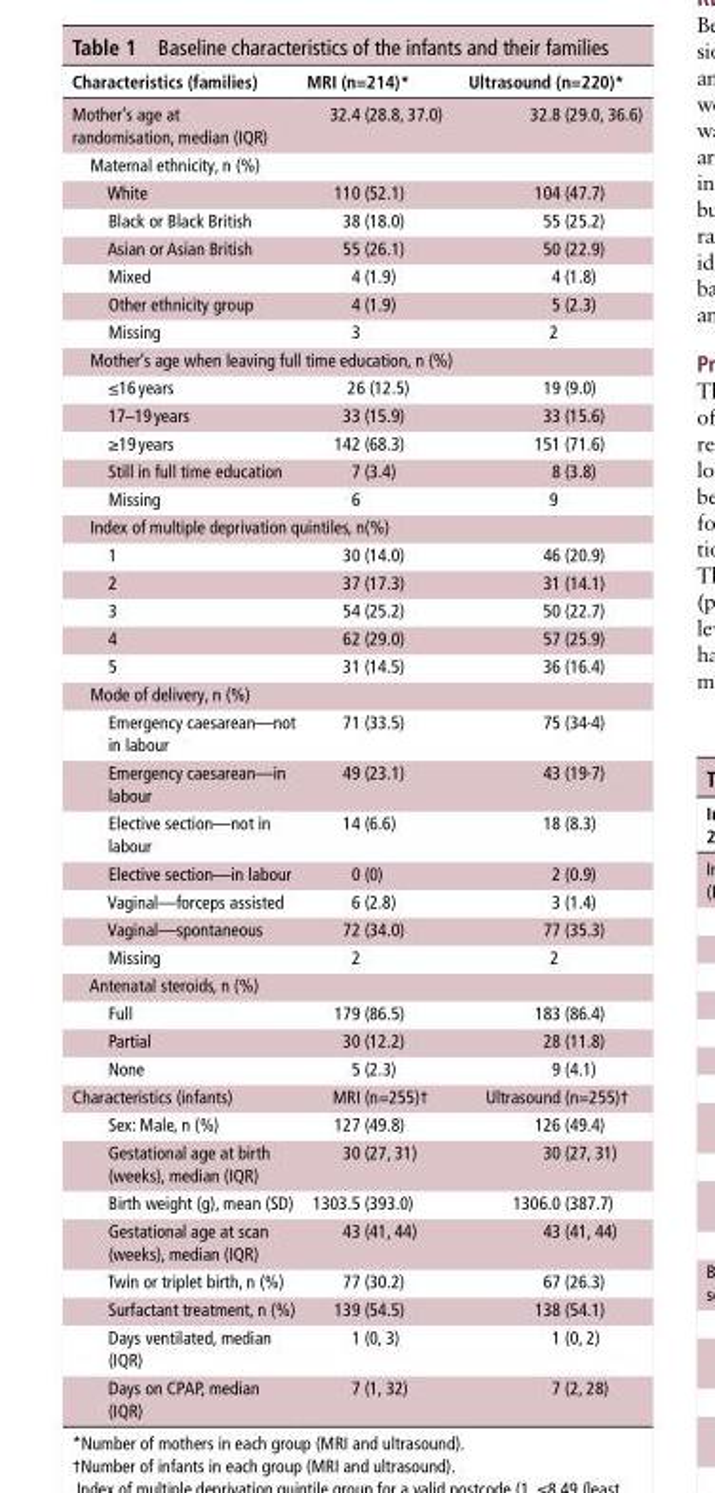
<table><thead><tr><td>characteristics (families)</td><td>MrI (n=214)*</td><td>ultrasound (n=220)*</td></tr></thead><tbody><tr><td>Mother’s age at randomisation, median (IQR)</td><td>32.4 (28.8, 37.0)</td><td>32.8 (29.0, 36.6)</td></tr><tr><td colspan="3">Maternal ethnicity, n (%)</td></tr><tr><td>White</td><td>110 (52.1)</td><td>104 (47.7)</td></tr><tr><td>Black or Black British</td><td>38 (18.0)</td><td>55 (25.2)</td></tr><tr><td>Asian or Asian British</td><td>55 (26.1)</td><td>50 (22.9)</td></tr><tr><td>Mixed</td><td>4 (1.9)</td><td>4 (1.8)</td></tr><tr><td>Other ethnicity group</td><td>4 (1.9)</td><td>5 (2.3)</td></tr><tr><td>Missing</td><td>3</td><td>2</td></tr><tr><td colspan="3">Mother’s age when leaving full time education, n (%)</td></tr><tr><td>≤16 years</td><td>26 (12.5)</td><td>19 (9.0)</td></tr><tr><td>17–19 years</td><td>33 (15.9)</td><td>33 (15.6)</td></tr><tr><td>≥19 years</td><td>142 (68.3)</td><td>151 (71.6)</td></tr><tr><td>Still in full time education</td><td>7 (3.4)</td><td>8 (3.8)</td></tr><tr><td>Missing</td><td>6</td><td>9</td></tr><tr><td colspan="3">Index of multiple deprivation quintiles, n(%)</td></tr><tr><td>1</td><td>30 (14.0)</td><td>46 (20.9)</td></tr><tr><td>2</td><td>37 (17.3)</td><td>31 (14.1)</td></tr><tr><td>3</td><td>54 (25.2)</td><td>50 (22.7)</td></tr><tr><td>4</td><td>62 (29.0)</td><td>57 (25.9)</td></tr><tr><td>5</td><td>31 (14.5)</td><td>36 (16.4)</td></tr><tr><td colspan="3">Mode of delivery, n (%)</td></tr><tr><td>Emergency caesarean—not in labour</td><td>71 (33.5)</td><td>75 (34·4)</td></tr><tr><td>Emergency caesarean—in labour</td><td>49 (23.1)</td><td>43 (19·7)</td></tr><tr><td>Elective section—not in labour</td><td>14 (6.6)</td><td>18 (8.3)</td></tr><tr><td>Elective section—in labour</td><td>0 (0)</td><td>2 (0.9)</td></tr><tr><td>Vaginal—forceps assisted</td><td>6 (2.8)</td><td>3 (1.4)</td></tr><tr><td>Vaginal—spontaneous</td><td>72 (34.0)</td><td>77 (35.3)</td></tr><tr><td>Missing</td><td>2</td><td>2</td></tr><tr><td colspan="3">Antenatal steroids, n (%)</td></tr><tr><td>Full</td><td>179 (86.5)</td><td>183 (86.4)</td></tr><tr><td>Partial</td><td>30 (12.2)</td><td>28 (11.8)</td></tr><tr><td>None</td><td>5 (2.3)</td><td>9 (4.1)</td></tr><tr><td>Characteristics (infants)</td><td>MRI (n=255)†</td><td>Ultrasound (n=255)†</td></tr><tr><td>Sex: Male, n (%)</td><td>127 (49.8)</td><td>126 (49.4)</td></tr><tr><td>Gestational age at birth (weeks), median (IQR)</td><td>30 (27, 31)</td><td>30 (27, 31)</td></tr><tr><td>Birth weight (g), mean (SD)</td><td>1303.5 (393.0)</td><td>1306.0 (387.7)</td></tr><tr><td>Gestational age at scan (weeks), median (IQR)</td><td>43 (41, 44)</td><td>43 (41, 44)</td></tr><tr><td>Twin or triplet birth, n (%)</td><td>77 (30.2)</td><td>67 (26.3)</td></tr><tr><td>Surfactant treatment, n (%)</td><td>139 (54.5)</td><td>138 (54.1)</td></tr><tr><td>Days ventilated, median (IQR)</td><td>1 (0, 3)</td><td>1 (0, 2)</td></tr><tr><td>Days on CPAP, median (IQR)</td><td>7 (1, 32)</td><td>7 (2, 28)</td></tr></tbody></table>